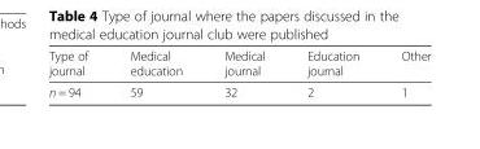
<table><thead><tr><td>Type of journal</td><td>Medical education</td><td>Medical journal</td><td>Education journal</td><td>Other</td></tr></thead><tbody><tr><td>n = 94</td><td>59</td><td>32</td><td>2</td><td>1</td></tr></tbody></table>